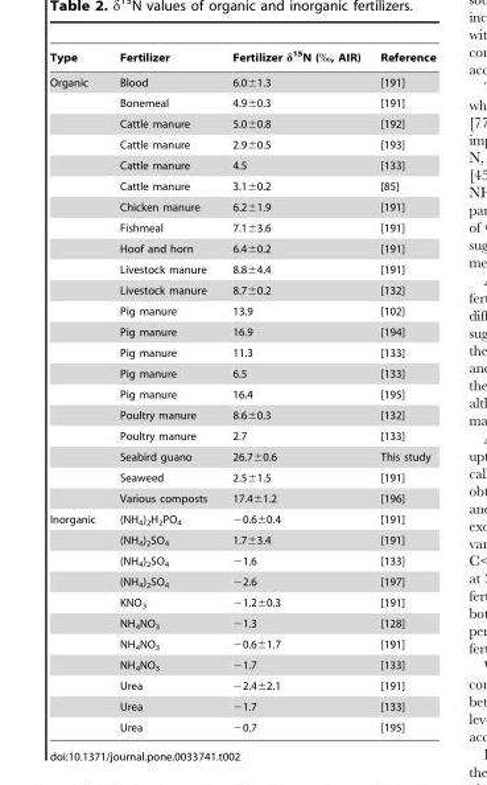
<table><thead><tr><td>Type</td><td>Fertilizer</td><td>Fertilizer δ<sup>15</sup>N (‰, AIR)</td><td>Reference</td></tr></thead><tbody><tr><td rowspan="21">Organic</td><td>Blood</td><td>6.0±1.3</td><td>[191]</td></tr><tr><td>Bonemeal</td><td>4.9±0.3</td><td>[191]</td></tr><tr><td>Cattle manure</td><td>5.0±0.8</td><td>[192]</td></tr><tr><td>Cattle manure</td><td>2.9±0.5</td><td>[193]</td></tr><tr><td>Cattle manure</td><td>4.5</td><td>[133]</td></tr><tr><td>Cattle manure</td><td>3.1±0.2</td><td>[85]</td></tr><tr><td>Chicken manure</td><td>6.2±1.9</td><td>[191]</td></tr><tr><td>Fishmeal</td><td>7.1±3.6</td><td>[191]</td></tr><tr><td>Hoof and horn</td><td>6.4±0.2</td><td>[191]</td></tr><tr><td>Livestock manure</td><td>8.8±4.4</td><td>[191]</td></tr><tr><td>Livestock manure</td><td>8.7±0.2</td><td>[132]</td></tr><tr><td>Pig manure</td><td>13.9</td><td>[102]</td></tr><tr><td>Pig manure</td><td>16.9</td><td>[194]</td></tr><tr><td>Pig manure</td><td>11.3</td><td>[133]</td></tr><tr><td>Pig manure</td><td>6.5</td><td>[133]</td></tr><tr><td>Pig manure</td><td>16.4</td><td>[195]</td></tr><tr><td>Poultry manure</td><td>8.6±0.3</td><td>[132]</td></tr><tr><td>Poultry manure</td><td>2.7</td><td>[133]</td></tr><tr><td>Seabird guano</td><td>26.7±0.6</td><td>This study</td></tr><tr><td>Seaweed</td><td>2.5±1.5</td><td>[191]</td></tr><tr><td>Various composts</td><td>17.4±1.2</td><td>[196]</td></tr><tr><td rowspan="11">Inorganic</td><td>(NH<sub>4</sub>)<sub>2</sub>H<sub>2</sub>PO<sub>4</sub></td><td>−0.6±0.4</td><td>[191]</td></tr><tr><td>(NH<sub>4</sub>)<sub>2</sub>SO<sub>4</sub></td><td>1.7±3.4</td><td>[191]</td></tr><tr><td>(NH<sub>4</sub>)<sub>2</sub>SO<sub>4</sub></td><td>−1.6</td><td>[133]</td></tr><tr><td>(NH<sub>4</sub>)<sub>2</sub>SO<sub>4</sub></td><td>−2.6</td><td>[197]</td></tr><tr><td>KNO<sub>3</sub></td><td>−1.2±0.3</td><td>[191]</td></tr><tr><td>NH<sub>4</sub>NO<sub>3</sub></td><td>−1.3</td><td>[128]</td></tr><tr><td>NH<sub>4</sub>NO<sub>3</sub></td><td>−0.6±1.7</td><td>[191]</td></tr><tr><td>NH<sub>4</sub>NO<sub>3</sub></td><td>−1.7</td><td>[133]</td></tr><tr><td>Urea</td><td>−2.4±2.1</td><td>[191]</td></tr><tr><td>Urea</td><td>−1.7</td><td>[133]</td></tr><tr><td>Urea</td><td>−0.7</td><td>[195]</td></tr></tbody></table>